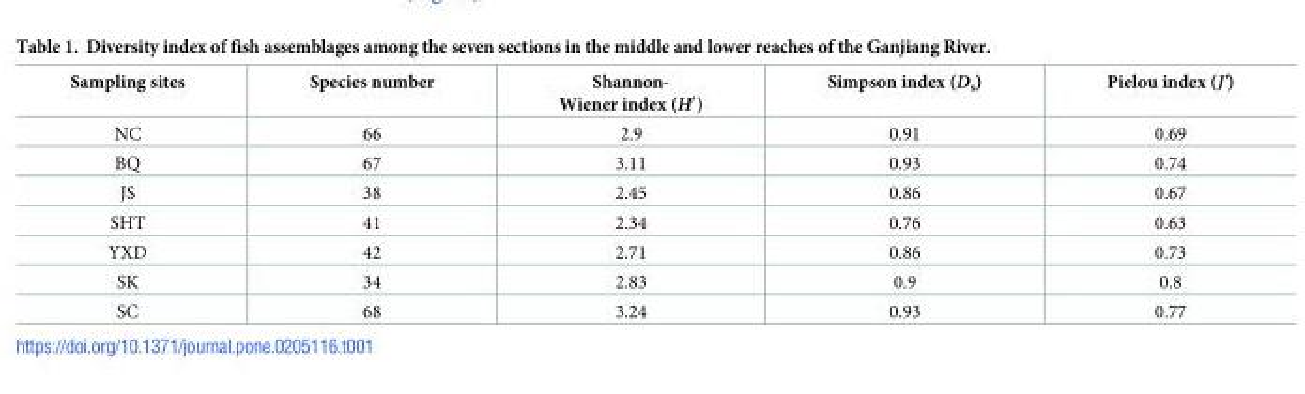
<table><thead><tr><td>Sampling sites</td><td>Species number</td><td>Shannon- Wiener index (H′)</td><td>Simpson index (D<sub>s</sub>)</td><td>Pielou index (J&#x27;)</td></tr></thead><tbody><tr><td>NC</td><td>66</td><td>2.9</td><td>0.91</td><td>0.69</td></tr><tr><td>BQ</td><td>67</td><td>3.11</td><td>0.93</td><td>0.74</td></tr><tr><td>JS</td><td>38</td><td>2.45</td><td>0.86</td><td>0.67</td></tr><tr><td>SHT</td><td>41</td><td>2.34</td><td>0.76</td><td>0.63</td></tr><tr><td>YXD</td><td>42</td><td>2.71</td><td>0.86</td><td>0.73</td></tr><tr><td>SK</td><td>34</td><td>2.83</td><td>0.9</td><td>0.8</td></tr><tr><td>SC</td><td>68</td><td>3.24</td><td>0.93</td><td>0.77</td></tr></tbody></table>